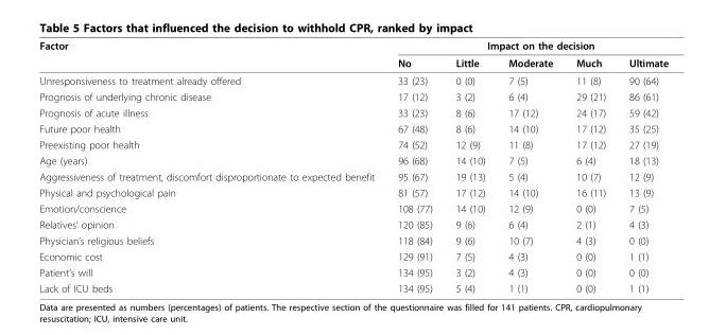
<table><thead><tr><td rowspan="2">Factor</td><td colspan="5">Impact on the decision</td></tr><tr><td>No</td><td>Little</td><td>Moderate</td><td>Much</td><td>Ultimate</td></tr></thead><tbody><tr><td>Unresponsiveness to treatment already offered</td><td>33 (23)</td><td>0 (0)</td><td>7 (5)</td><td>11 (8)</td><td>90 (64)</td></tr><tr><td>Prognosis of underlying chronic disease</td><td>17 (12)</td><td>3 (2)</td><td>6 (4)</td><td>29 (21)</td><td>86 (61)</td></tr><tr><td>Prognosis of acute illness</td><td>33 (23)</td><td>8 (6)</td><td>17 (12)</td><td>24 (17)</td><td>59 (42)</td></tr><tr><td>Future poor health</td><td>67 (48)</td><td>8 (6)</td><td>14 (10)</td><td>17 (12)</td><td>35 (25)</td></tr><tr><td>Preexisting poor health</td><td>74 (52)</td><td>12 (9)</td><td>11 (8)</td><td>17 (12)</td><td>27 (19)</td></tr><tr><td>Age (years)</td><td>96 (68)</td><td>14 (10)</td><td>7 (5)</td><td>6 (4)</td><td>18 (13)</td></tr><tr><td>Aggressiveness of treatment, discomfort disproportionate to expected benefit</td><td>95 (67)</td><td>19 (13)</td><td>5 (4)</td><td>10 (7)</td><td>12 (9)</td></tr><tr><td>Physical and psychological pain</td><td>81 (57)</td><td>17 (12)</td><td>14 (10)</td><td>16 (11)</td><td>13 (9)</td></tr><tr><td>Emotion/conscience</td><td>108 (77)</td><td>14 (10)</td><td>12 (9)</td><td>0 (0)</td><td>7 (5)</td></tr><tr><td>Relatives’ opinion</td><td>120 (85)</td><td>9 (6)</td><td>6 (4)</td><td>2 (1)</td><td>4 (3)</td></tr><tr><td>Physician’s religious beliefs</td><td>118 (84)</td><td>9 (6)</td><td>10 (7)</td><td>4 (3)</td><td>0 (0)</td></tr><tr><td>Economic cost</td><td>129 (91)</td><td>7 (5)</td><td>4 (3)</td><td>0 (0)</td><td>1 (1)</td></tr><tr><td>Patient’s will</td><td>134 (95)</td><td>3 (2)</td><td>4 (3)</td><td>0 (0)</td><td>0 (0)</td></tr><tr><td>Lack of ICU beds</td><td>134 (95)</td><td>5 (4)</td><td>1 (1)</td><td>0 (0)</td><td>1 (1)</td></tr></tbody></table>